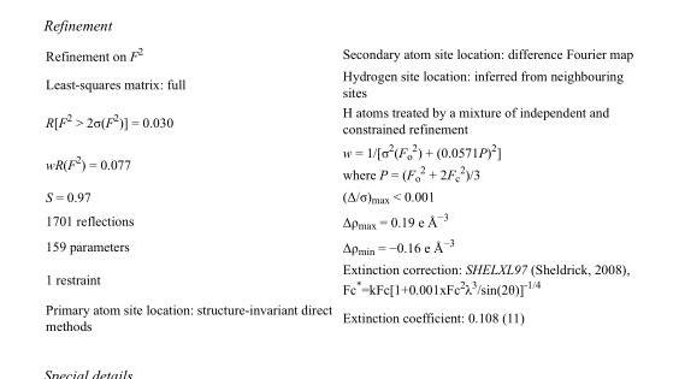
<table><tbody><tr><td>Refinement on F<sup>2</sup></td><td>Secondary atom site location: difference Fourier map</td></tr><tr><td>Least-squares matrix: full</td><td>Hydrogen site location: inferred from neighbouring sites</td></tr><tr><td>R[F<sup>2</sup> &gt; 2σ(F<sup>2</sup>)] = 0.030</td><td>H atoms treated by a mixture of independent and constrained refinement</td></tr><tr><td>wR(F<sup>2</sup>) = 0.077</td><td>w = 1/[σ<sup>2</sup>(F<sub>o</sub> <sup>2</sup>) + (0.0571P)<sup>2</sup>] where P = (F<sub>o</sub> <sup>2</sup> + 2F<sub>c</sub> <sup>2</sup>)/3</td></tr><tr><td>S = 0.97</td><td>(Δ/σ)<sub>max</sub> &lt; 0.001</td></tr><tr><td>1701 reflections</td><td>Δρ<sub>max</sub> = 0.19 e Å<sup>−3</sup></td></tr><tr><td>159 parameters</td><td>Δρ<sub>min</sub> = −0.16 e Å<sup>−3</sup></td></tr><tr><td>1 restraint</td><td>Extinction correction: SHELXL97 (Sheldrick, 2008), Fc*=kFc[1+0.001xFc<sup>2</sup>λ<sup>3</sup>/sin(2θ)]<sup>-1/4</sup></td></tr><tr><td>Primary atom site location: structure-invariant direct methods</td><td>Extinction coefficient: 0.108 (11)</td></tr></tbody></table>